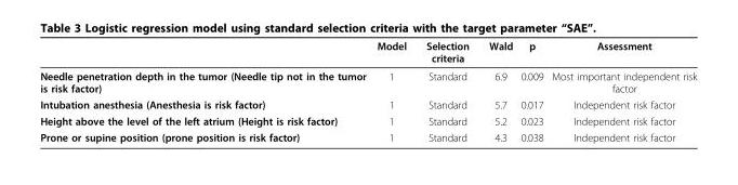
<table><thead><tr><td></td><td>Model</td><td>Selection criteria</td><td>Wald</td><td>p</td><td>Assessment</td></tr></thead><tbody><tr><td>Needle penetration depth in the tumor (Needle tip not in the tumor is risk factor)</td><td>1</td><td>Standard</td><td>6.9</td><td>0.009</td><td>Most important independent risk factor</td></tr><tr><td>Intubation anesthesia (Anesthesia is risk factor)</td><td>1</td><td>Standard</td><td>5.7</td><td>0.017</td><td>Independent risk factor</td></tr><tr><td>Height above the level of the left atrium (Height is risk factor)</td><td>1</td><td>Standard</td><td>5.2</td><td>0.023</td><td>Independent risk factor</td></tr><tr><td>Prone or supine position (prone position is risk factor)</td><td>1</td><td>Standard</td><td>4.3</td><td>0.038</td><td>Independent risk factor</td></tr></tbody></table>